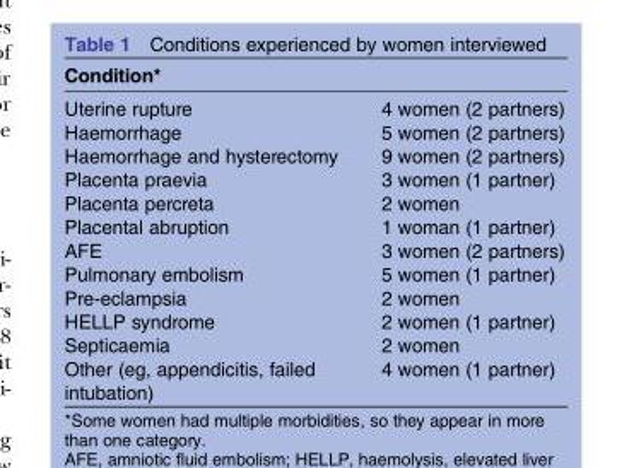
<table><thead><tr><td>Condition*</td><td></td></tr></thead><tbody><tr><td>Uterine rupture</td><td>4 women (2 partners)</td></tr><tr><td>Haemorrhage</td><td>5 women (2 partners)</td></tr><tr><td>Haemorrhage and hysterectomy</td><td>9 women (2 partners)</td></tr><tr><td>Placenta praevia</td><td>3 women (1 partner)</td></tr><tr><td>Placenta percreta</td><td>2 women</td></tr><tr><td>Placental abruption</td><td>1 woman (1 partner)</td></tr><tr><td>AFE</td><td>3 women (2 partners)</td></tr><tr><td>Pulmonary embolism</td><td>5 women (1 partner)</td></tr><tr><td>Pre-eclampsia</td><td>2 women</td></tr><tr><td>HELLP syndrome</td><td>2 women (1 partner)</td></tr><tr><td>Septicaemia</td><td>2 women</td></tr><tr><td>Other (eg, appendicitis, failed intubation)</td><td>4 women (1 partner)</td></tr></tbody></table>